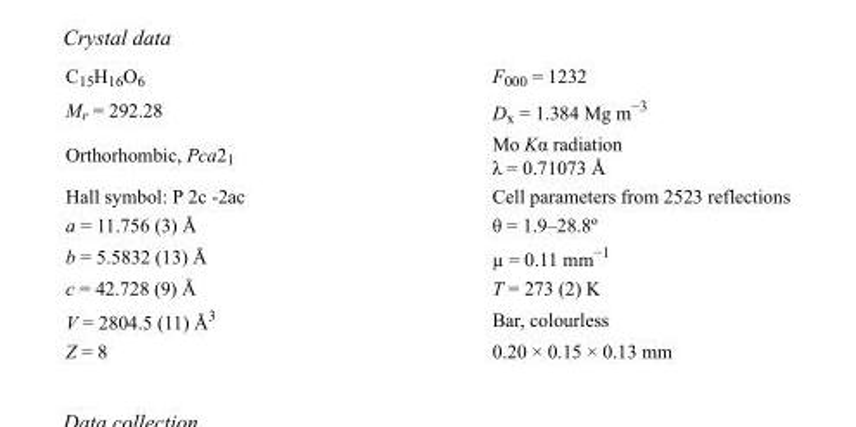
<table><tbody><tr><td>C<sub>15</sub>H<sub>16</sub>O<sub>6</sub></td><td>F000 = 1232</td></tr><tr><td>M<sub>r</sub> = 292.28</td><td>D<sub>x</sub> = 1.384 Mg m<sup>−3</sup></td></tr><tr><td>Orthorhombic, Pca2<sub>1</sub></td><td>Mo Kα radiation λ = 0.71073 Å</td></tr><tr><td>Hall symbol: P 2c -2ac</td><td>Cell parameters from 2523 reflections</td></tr><tr><td>a = 11.756 (3) Å</td><td>θ = 1.9–28.8º</td></tr><tr><td>b = 5.5832 (13) Å</td><td>µ = 0.11 mm<sup>−1</sup></td></tr><tr><td>c = 42.728 (9) Å</td><td>T = 273 (2) K</td></tr><tr><td>V = 2804.5 (11) Å<sup>3</sup></td><td>Bar, colourless</td></tr><tr><td>Z = 8</td><td>0.20 × 0.15 × 0.13 mm</td></tr></tbody></table>